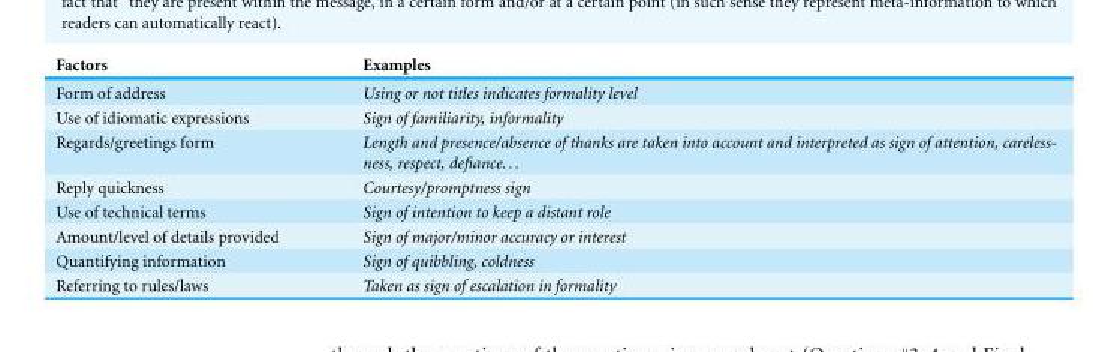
<table><thead><tr><td>Factors</td><td>Examples</td></tr></thead><tbody><tr><td>Form of address</td><td>Using or not titles indicates formality level</td></tr><tr><td>Use of idiomatic expressions</td><td>Sign of familiarity, informality</td></tr><tr><td>Regards/greetings form</td><td>Length and presence/absence of thanks are taken into account and interpreted as sign of attention, careless- ness, respect, defiance...</td></tr><tr><td>Reply quickness</td><td>Courtesy/promptness sign</td></tr><tr><td>Use of technical terms</td><td>Sign of intention to keep a distant role</td></tr><tr><td>Amount/level of details provided</td><td>Sign of major/minor accuracy or interest</td></tr><tr><td>Quantifying information</td><td>Sign of quibbling, coldness</td></tr><tr><td>Referring to rules/laws</td><td>Taken as sign of escalation in formality</td></tr></tbody></table>